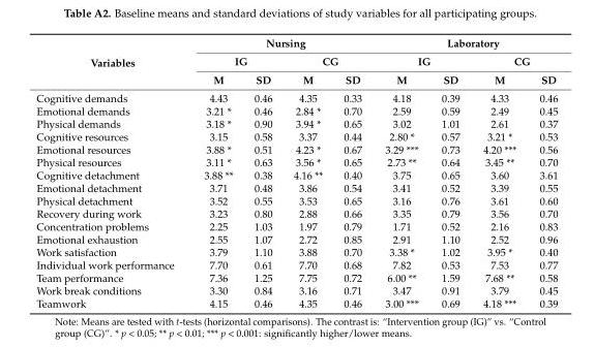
<table><thead><tr><td rowspan="3">Variables</td><td colspan="4">Nursing</td><td colspan="4">Laboratory</td></tr><tr><td colspan="2">IG</td><td colspan="2">CG</td><td colspan="2">IG</td><td colspan="2">CG</td></tr><tr><td>M</td><td>SD</td><td>M</td><td>SD</td><td>M</td><td>SD</td><td>M</td><td>SD</td></tr></thead><tbody><tr><td>Cognitive demands</td><td>4.43</td><td>0.46</td><td>4.35</td><td>0.33</td><td>4.18</td><td>0.39</td><td>4.33</td><td>0.46</td></tr><tr><td>Emotional demands</td><td>3.21 *</td><td>0.46</td><td>2.84 *</td><td>0.70</td><td>2.59</td><td>0.59</td><td>2.49</td><td>0.45</td></tr><tr><td>Physical demands</td><td>3.18 *</td><td>0.90</td><td>3.94 *</td><td>0.65</td><td>3.02</td><td>1.01</td><td>2.61</td><td>0.37</td></tr><tr><td>Cognitive resources</td><td>3.15</td><td>0.58</td><td>3.37</td><td>0.44</td><td>2.80 *</td><td>0.57</td><td>3.21 *</td><td>0.53</td></tr><tr><td>Emotional resources</td><td>3.88 *</td><td>0.51</td><td>4.23 *</td><td>0.67</td><td>3.29 ***</td><td>0.73</td><td>4.20 ***</td><td>0.56</td></tr><tr><td>Physical resources</td><td>3.11 *</td><td>0.63</td><td>3.56 *</td><td>0.65</td><td>2.73 **</td><td>0.64</td><td>3.45 **</td><td>0.70</td></tr><tr><td>Cognitive detachment</td><td>3.88 **</td><td>0.38</td><td>4.16 **</td><td>0.40</td><td>3.75</td><td>0.65</td><td>3.60</td><td>3.61</td></tr><tr><td>Emotional detachment</td><td>3.71</td><td>0.48</td><td>3.86</td><td>0.54</td><td>3.41</td><td>0.52</td><td>3.39</td><td>0.55</td></tr><tr><td>Physical detachment</td><td>3.52</td><td>0.55</td><td>3.53</td><td>0.65</td><td>3.16</td><td>0.76</td><td>3.61</td><td>0.60</td></tr><tr><td>Recovery during work</td><td>3.23</td><td>0.80</td><td>2.88</td><td>0.66</td><td>3.35</td><td>0.79</td><td>3.56</td><td>0.70</td></tr><tr><td>Concentration problems</td><td>2.25</td><td>1.03</td><td>1.97</td><td>0.79</td><td>1.71</td><td>0.52</td><td>2.16</td><td>0.83</td></tr><tr><td>Emotional exhaustion</td><td>2.55</td><td>1.07</td><td>2.72</td><td>0.85</td><td>2.91</td><td>1.10</td><td>2.52</td><td>0.96</td></tr><tr><td>Work satisfaction</td><td>3.79</td><td>1.10</td><td>3.88</td><td>0.70</td><td>3.38 *</td><td>1.02</td><td>3.95 *</td><td>0.40</td></tr><tr><td>Individual work performance</td><td>7.70</td><td>0.61</td><td>7.70</td><td>0.68</td><td>7.82</td><td>0.53</td><td>7.53</td><td>0.77</td></tr><tr><td>Team performance</td><td>7.36</td><td>1.25</td><td>7.75</td><td>0.72</td><td>6.00 **</td><td>1.59</td><td>7.68 **</td><td>0.58</td></tr><tr><td>Work break conditions</td><td>3.30</td><td>0.84</td><td>3.16</td><td>0.71</td><td>3.47</td><td>0.91</td><td>3.79</td><td>0.45</td></tr><tr><td>Teamwork</td><td>4.15</td><td>0.46</td><td>4.35</td><td>0.46</td><td>3.00 ***</td><td>0.69</td><td>4.18 ***</td><td>0.39</td></tr></tbody></table>